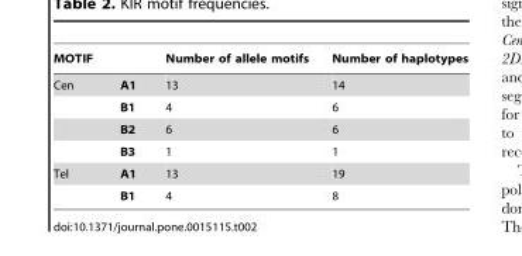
<table><thead><tr><td colspan="2">MOTIF</td><td rowspan="2">Number of allele motifs 13</td><td rowspan="2">Number of haplotypes 14</td></tr><tr><td>Cen</td><td>A1</td></tr></thead><tbody><tr><td></td><td>B1</td><td>4</td><td>6</td></tr><tr><td></td><td>B2</td><td>6</td><td>6</td></tr><tr><td></td><td>B3</td><td>1</td><td>1</td></tr><tr><td rowspan="2">Tel</td><td>A1</td><td>13</td><td>19</td></tr><tr><td>B1</td><td>4</td><td>8</td></tr></tbody></table>